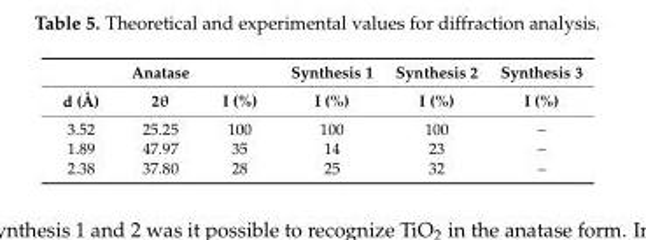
<table><thead><tr><td colspan="3">Anatase</td><td rowspan="2">Synthesis 1 I (%)</td><td rowspan="2">Synthesis 2 I (%)</td><td rowspan="2">Synthesis 3 I (%)</td></tr><tr><td>d (Å)</td><td>2θ</td><td>I (%)</td></tr></thead><tbody><tr><td>3.52</td><td>25.25</td><td>100</td><td>100</td><td>100</td><td>–</td></tr><tr><td>1.89</td><td>47.97</td><td>35</td><td>14</td><td>23</td><td>–</td></tr><tr><td>2.38</td><td>37.80</td><td>28</td><td>25</td><td>32</td><td>–</td></tr></tbody></table>